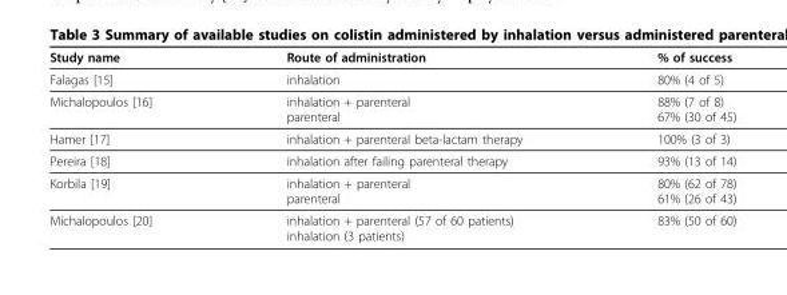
<table><thead><tr><td>Study name</td><td>Route of administration</td><td>% of success</td></tr></thead><tbody><tr><td>Falagas [15]</td><td>inhalation</td><td>80% (4 of 5)</td></tr><tr><td>Michalopoulos [16]</td><td>inhalation + parenteral parenteral</td><td>88% (7 of 8) 67% (30 of 45)</td></tr><tr><td>Hamer [17]</td><td>inhalation + parenteral beta-lactam therapy</td><td>100% (3 of 3)</td></tr><tr><td>Pereira [18]</td><td>inhalation after failing parenteral therapy</td><td>93% (13 of 14)</td></tr><tr><td>Korbila [19]</td><td>inhalation + parenteral parenteral</td><td>80% (62 of 78) 61% (26 of 43)</td></tr><tr><td>Michalopoulos [20]</td><td>inhalation + parenteral (57 of 60 patients) inhalation (3 patients)</td><td>83% (50 of 60)</td></tr></tbody></table>